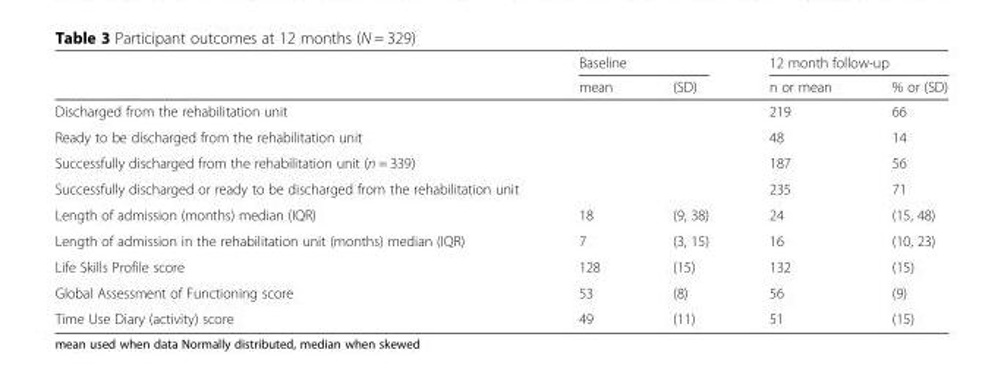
<table><thead><tr><td rowspan="2"></td><td colspan="2">Baseline</td><td colspan="2">12 month follow-up</td></tr><tr><td>mean</td><td>(SD)</td><td>n or mean</td><td>% or (SD)</td></tr></thead><tbody><tr><td>Discharged from the rehabilitation unit</td><td></td><td></td><td>219</td><td>66</td></tr><tr><td>Ready to be discharged from the rehabilitation unit</td><td></td><td></td><td>48</td><td>14</td></tr><tr><td>Successfully discharged from the rehabilitation unit (n = 339)</td><td></td><td></td><td>187</td><td>56</td></tr><tr><td>Successfully discharged or ready to be discharged from the rehabilitation unit</td><td></td><td></td><td>235</td><td>71</td></tr><tr><td>Length of admission (months) median (IQR)</td><td>18</td><td>(9, 38)</td><td>24</td><td>(15, 48)</td></tr><tr><td>Length of admission in the rehabilitation unit (months) median (IQR)</td><td>7</td><td>(3, 15)</td><td>16</td><td>(10, 23)</td></tr><tr><td>Life Skills Profile score</td><td>128</td><td>(15)</td><td>132</td><td>(15)</td></tr><tr><td>Global Assessment of Functioning score</td><td>53</td><td>(8)</td><td>56</td><td>(9)</td></tr><tr><td>Time Use Diary (activity) score</td><td>49</td><td>(11)</td><td>51</td><td>(15)</td></tr></tbody></table>